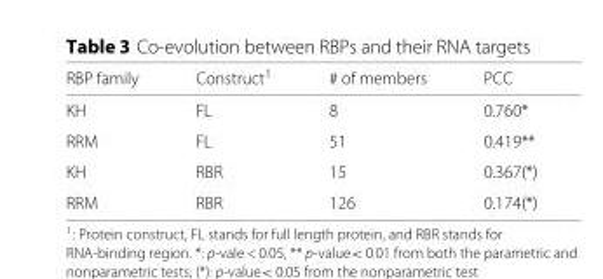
<table><thead><tr><td>RBP family</td><td>Construct<sup>1</sup></td><td># of members</td><td>PCC</td></tr></thead><tbody><tr><td>KH</td><td>FL</td><td>8</td><td>0.760*</td></tr><tr><td>RRM</td><td>FL</td><td>51</td><td>0.419**</td></tr><tr><td>KH</td><td>RBR</td><td>15</td><td>0.367(*)</td></tr><tr><td>RRM</td><td>RBR</td><td>126</td><td>0.174(*)</td></tr></tbody></table>